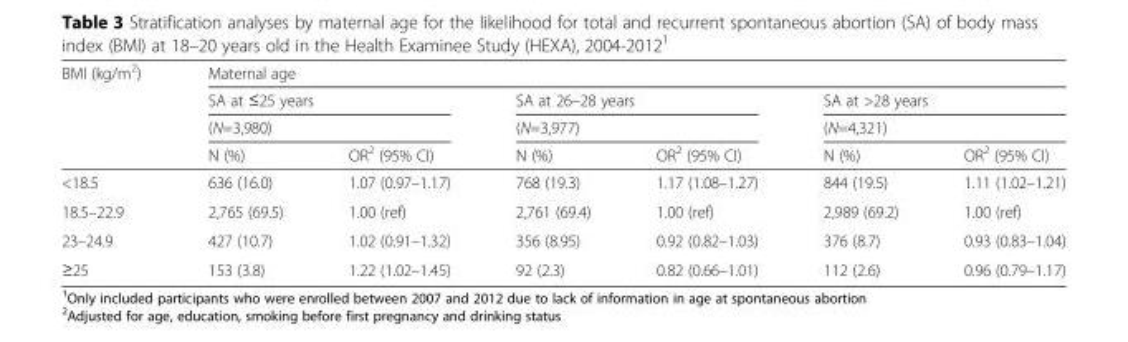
<table><thead><tr><td rowspan="4">BMI (kg/m<sup>2</sup>)</td><td colspan="6">Maternal age</td></tr><tr><td rowspan="2" colspan="2">SA at ≤25 years (N=3,980)</td><td rowspan="2" colspan="2">SA at 26–28 years (N=3,977)</td><td rowspan="2" colspan="2">SA at &gt;28 years (N=4,321)</td></tr><tr></tr><tr><td>N (%)</td><td>OR<sup>2</sup> (95% CI)</td><td>N (%)</td><td>OR<sup>2</sup> (95% CI)</td><td>N (%)</td><td>OR<sup>2</sup> (95% CI)</td></tr></thead><tbody><tr><td>&lt;18.5</td><td>636 (16.0)</td><td>1.07 (0.97–1.17)</td><td>768 (19.3)</td><td>1.17 (1.08–1.27)</td><td>844 (19.5)</td><td>1.11 (1.02–1.21)</td></tr><tr><td>18.5–22.9</td><td>2,765 (69.5)</td><td>1.00 (ref)</td><td>2,761 (69.4)</td><td>1.00 (ref)</td><td>2,989 (69.2)</td><td>1.00 (ref)</td></tr><tr><td>23–24.9</td><td>427 (10.7)</td><td>1.02 (0.91–1.32)</td><td>356 (8.95)</td><td>0.92 (0.82–1.03)</td><td>376 (8.7)</td><td>0.93 (0.83–1.04)</td></tr><tr><td>≥25</td><td>153 (3.8)</td><td>1.22 (1.02–1.45)</td><td>92 (2.3)</td><td>0.82 (0.66–1.01)</td><td>112 (2.6)</td><td>0.96 (0.79–1.17)</td></tr></tbody></table>